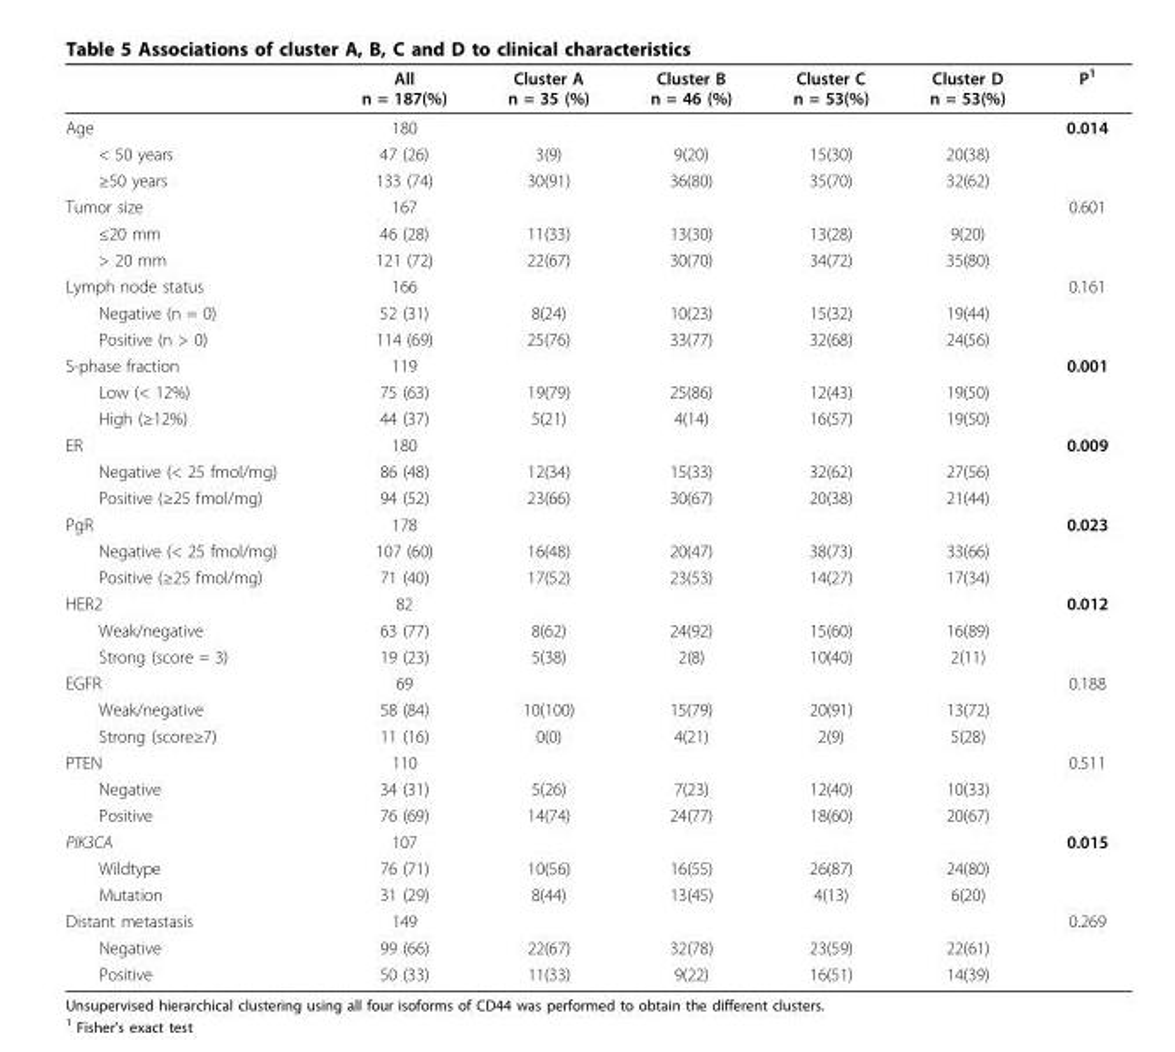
<table><thead><tr><td></td><td>All n = 187(%)</td><td>Cluster A n = 35 (%)</td><td>Cluster B n = 46 (%)</td><td>Cluster C n = 53(%)</td><td>Cluster D n = 53(%)</td><td>P<sup>1</sup></td></tr></thead><tbody><tr><td>Age</td><td>180</td><td></td><td></td><td></td><td></td><td>0.014</td></tr><tr><td>&lt; 50 years</td><td>47 (26)</td><td>3(9)</td><td>9(20)</td><td>15(30)</td><td>20(38)</td><td></td></tr><tr><td>≥50 years</td><td>133 (74)</td><td>30(91)</td><td>36(80)</td><td>35(70)</td><td>32(62)</td><td></td></tr><tr><td>Tumor size</td><td>167</td><td></td><td></td><td></td><td></td><td>0.601</td></tr><tr><td>≤20 mm</td><td>46 (28)</td><td>11(33)</td><td>13(30)</td><td>13(28)</td><td>9(20)</td><td></td></tr><tr><td>&gt; 20 mm</td><td>121 (72)</td><td>22(67)</td><td>30(70)</td><td>34(72)</td><td>35(80)</td><td></td></tr><tr><td>Lymph node status</td><td>166</td><td></td><td></td><td></td><td></td><td>0.161</td></tr><tr><td>Negative (n = 0)</td><td>52 (31)</td><td>8(24)</td><td>10(23)</td><td>15(32)</td><td>19(44)</td><td></td></tr><tr><td>Positive (n &gt; 0)</td><td>114 (69)</td><td>25(76)</td><td>33(77)</td><td>32(68)</td><td>24(56)</td><td></td></tr><tr><td>S-phase fraction</td><td>119</td><td></td><td></td><td></td><td></td><td>0.001</td></tr><tr><td>Low (&lt; 12%)</td><td>75 (63)</td><td>19(79)</td><td>25(86)</td><td>12(43)</td><td>19(50)</td><td></td></tr><tr><td>High (≥12%)</td><td>44 (37)</td><td>5(21)</td><td>4(14)</td><td>16(57)</td><td>19(50)</td><td></td></tr><tr><td>ER</td><td>180</td><td></td><td></td><td></td><td></td><td>0.009</td></tr><tr><td>Negative (&lt; 25 fmol/mg)</td><td>86 (48)</td><td>12(34)</td><td>15(33)</td><td>32(62)</td><td>27(56)</td><td></td></tr><tr><td>Positive (≥25 fmol/mg)</td><td>94 (52)</td><td>23(66)</td><td>30(67)</td><td>20(38)</td><td>21(44)</td><td></td></tr><tr><td>PgR</td><td>178</td><td></td><td></td><td></td><td></td><td>0.023</td></tr><tr><td>Negative (&lt; 25 fmol/mg)</td><td>107 (60)</td><td>16(48)</td><td>20(47)</td><td>38(73)</td><td>33(66)</td><td></td></tr><tr><td>Positive (≥25 fmol/mg)</td><td>71 (40)</td><td>17(52)</td><td>23(53)</td><td>14(27)</td><td>17(34)</td><td></td></tr><tr><td>HER2</td><td>82</td><td></td><td></td><td></td><td></td><td>0.012</td></tr><tr><td>Weak/negative</td><td>63 (77)</td><td>8(62)</td><td>24(92)</td><td>15(60)</td><td>16(89)</td><td></td></tr><tr><td>Strong (score = 3)</td><td>19 (23)</td><td>5(38)</td><td>2(8)</td><td>10(40)</td><td>2(11)</td><td></td></tr><tr><td>EGFR</td><td>69</td><td></td><td></td><td></td><td></td><td>0.188</td></tr><tr><td>Weak/negative</td><td>58 (84)</td><td>10(100)</td><td>15(79)</td><td>20(91)</td><td>13(72)</td><td></td></tr><tr><td>Strong (score≥7)</td><td>11 (16)</td><td>0(0)</td><td>4(21)</td><td>2(9)</td><td>5(28)</td><td></td></tr><tr><td>PTEN</td><td>110</td><td></td><td></td><td></td><td></td><td>0.511</td></tr><tr><td>Negative</td><td>34 (31)</td><td>5(26)</td><td>7(23)</td><td>12(40)</td><td>10(33)</td><td></td></tr><tr><td>Positive</td><td>76 (69)</td><td>14(74)</td><td>24(77)</td><td>18(60)</td><td>20(67)</td><td></td></tr><tr><td>PIK3CA</td><td>107</td><td></td><td></td><td></td><td></td><td>0.015</td></tr><tr><td>Wildtype</td><td>76 (71)</td><td>10(56)</td><td>16(55)</td><td>26(87)</td><td>24(80)</td><td></td></tr><tr><td>Mutation</td><td>31 (29)</td><td>8(44)</td><td>13(45)</td><td>4(13)</td><td>6(20)</td><td></td></tr><tr><td>Distant metastasis</td><td>149</td><td></td><td></td><td></td><td></td><td>0.269</td></tr><tr><td>Negative</td><td>99 (66)</td><td>22(67)</td><td>32(78)</td><td>23(59)</td><td>22(61)</td><td></td></tr><tr><td>Positive</td><td>50 (33)</td><td>11(33)</td><td>9(22)</td><td>16(51)</td><td>14(39)</td><td></td></tr></tbody></table>